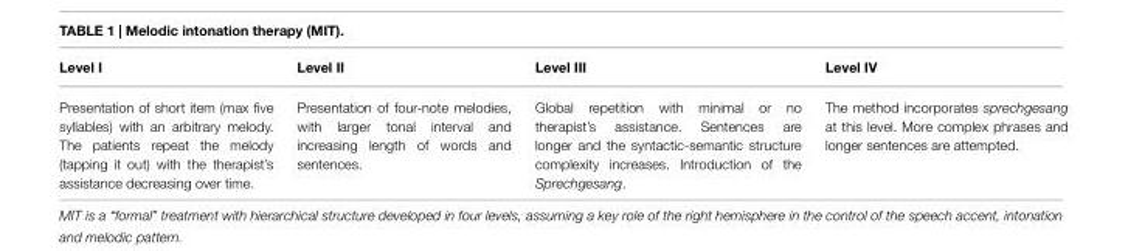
<table><thead><tr><td>Level I</td><td>Level II</td><td>Level III</td><td>Level IV</td></tr></thead><tbody><tr><td>Presentation of short item (max five syllables) with an arbitrary melody. The patients repeat the melody (tapping it out) with the therapist’s assistance decreasing over time.</td><td>Presentation of four-note melodies, with larger tonal interval and increasing length of words and sentences.</td><td>Global repetition with minimal or no therapist’s assistance. Sentences are longer and the syntactic-semantic structure complexity increases. Introduction of the Sprechgesang.</td><td>The method incorporates sprechgesang at this level. More complex phrases and longer sentences are attempted.</td></tr></tbody></table>